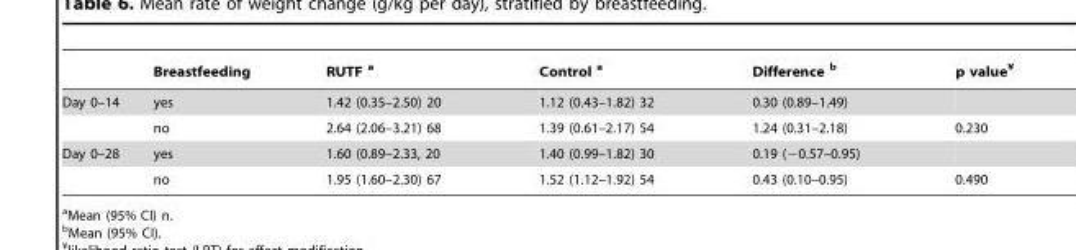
<table><thead><tr><td></td><td>Breastfeeding</td><td>RUTF a</td><td>Control a</td><td>Difference b</td><td>p value¥</td></tr></thead><tbody><tr><td rowspan="2">Day 0–14</td><td>yes</td><td>1.42 (0.35–2.50) 20</td><td>1.12 (0.43–1.82) 32</td><td>0.30 (0.89–1.49)</td><td></td></tr><tr><td>no</td><td>2.64 (2.06–3.21) 68</td><td>1.39 (0.61–2.17) 54</td><td>1.24 (0.31–2.18)</td><td>0.230</td></tr><tr><td rowspan="2">Day 0–28</td><td>yes</td><td>1.60 (0.89–2.33, 20</td><td>1.40 (0.99–1.82) 30</td><td>0.19 (−0.57–0.95)</td><td></td></tr><tr><td>no</td><td>1.95 (1.60–2.30) 67</td><td>1.52 (1.12–1.92) 54</td><td>0.43 (0.10–0.95)</td><td>0.490</td></tr></tbody></table>